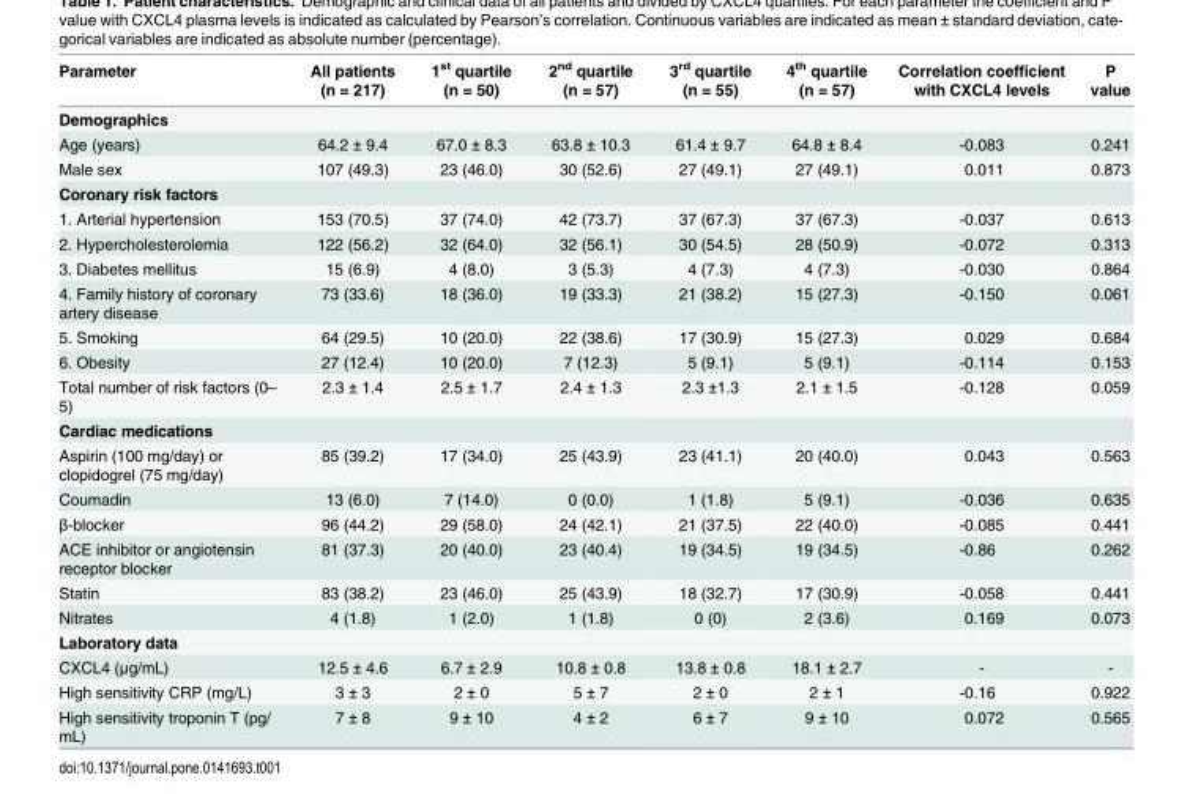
<table><thead><tr><td>Parameter</td><td>All patients (n = 217)</td><td>1<sup>st</sup> quartile (n = 50)</td><td>2<sup>nd</sup> quartile (n = 57)</td><td>3<sup>rd</sup> quartile (n = 55)</td><td>4<sup>th</sup> quartile (n = 57)</td><td>Correlation coefficient with CXCL4 levels</td><td>P value</td></tr></thead><tbody><tr><td colspan="8">Demographics</td></tr><tr><td>Age (years)</td><td>64.2 ± 9.4</td><td>67.0 ± 8.3</td><td>63.8 ± 10.3</td><td>61.4 ± 9.7</td><td>64.8 ± 8.4</td><td>-0.083</td><td>0.241</td></tr><tr><td>Male sex</td><td>107 (49.3)</td><td>23 (46.0)</td><td>30 (52.6)</td><td>27 (49.1)</td><td>27 (49.1)</td><td>0.011</td><td>0.873</td></tr><tr><td colspan="8">Coronary risk factors</td></tr><tr><td>1. Arterial hypertension</td><td>153 (70.5)</td><td>37 (74.0)</td><td>42 (73.7)</td><td>37 (67.3)</td><td>37 (67.3)</td><td>-0.037</td><td>0.613</td></tr><tr><td>2. Hypercholesterolemia</td><td>122 (56.2)</td><td>32 (64.0)</td><td>32 (56.1)</td><td>30 (54.5)</td><td>28 (50.9)</td><td>-0.072</td><td>0.313</td></tr><tr><td>3. Diabetes mellitus</td><td>15 (6.9)</td><td>4 (8.0)</td><td>3 (5.3)</td><td>4 (7.3)</td><td>4 (7.3)</td><td>-0.030</td><td>0.864</td></tr><tr><td>4. Family history of coronary artery disease</td><td>73 (33.6)</td><td>18 (36.0)</td><td>19 (33.3)</td><td>21 (38.2)</td><td>15 (27.3)</td><td>-0.150</td><td>0.061</td></tr><tr><td>5. Smoking</td><td>64 (29.5)</td><td>10 (20.0)</td><td>22 (38.6)</td><td>17 (30.9)</td><td>15 (27.3)</td><td>0.029</td><td>0.684</td></tr><tr><td>6. Obesity</td><td>27 (12.4)</td><td>10 (20.0)</td><td>7 (12.3)</td><td>5 (9.1)</td><td>5 (9.1)</td><td>-0.114</td><td>0.153</td></tr><tr><td>Total number of risk factors (0– 5)</td><td>2.3 ± 1.4</td><td>2.5 ± 1.7</td><td>2.4 ± 1.3</td><td>2.3 ±1.3</td><td>2.1 ± 1.5</td><td>-0.128</td><td>0.059</td></tr><tr><td colspan="8">Cardiac medications</td></tr><tr><td>Aspirin (100 mg/day) or clopidogrel (75 mg/day)</td><td>85 (39.2)</td><td>17 (34.0)</td><td>25 (43.9)</td><td>23 (41.1)</td><td>20 (40.0)</td><td>0.043</td><td>0.563</td></tr><tr><td>Coumadin</td><td>13 (6.0)</td><td>7 (14.0)</td><td>0 (0.0)</td><td>1 (1.8)</td><td>5 (9.1)</td><td>-0.036</td><td>0.635</td></tr><tr><td>β-blocker</td><td>96 (44.2)</td><td>29 (58.0)</td><td>24 (42.1)</td><td>21 (37.5)</td><td>22 (40.0)</td><td>-0.085</td><td>0.441</td></tr><tr><td>ACE inhibitor or angiotensin receptor blocker</td><td>81 (37.3)</td><td>20 (40.0)</td><td>23 (40.4)</td><td>19 (34.5)</td><td>19 (34.5)</td><td>-0.86</td><td>0.262</td></tr><tr><td>Statin</td><td>83 (38.2)</td><td>23 (46.0)</td><td>25 (43.9)</td><td>18 (32.7)</td><td>17 (30.9)</td><td>-0.058</td><td>0.441</td></tr><tr><td>Nitrates</td><td>4 (1.8)</td><td>1 (2.0)</td><td>1 (1.8)</td><td>0 (0)</td><td>2 (3.6)</td><td>0.169</td><td>0.073</td></tr><tr><td colspan="8">Laboratory data</td></tr><tr><td>CXCL4 (μg/mL)</td><td>12.5 ± 4.6</td><td>6.7 ± 2.9</td><td>10.8 ± 0.8</td><td>13.8 ± 0.8</td><td>18.1 ± 2.7</td><td>-</td><td>-</td></tr><tr><td>High sensitivity CRP (mg/L)</td><td>3 ± 3</td><td>2 ± 0</td><td>5 ± 7</td><td>2 ± 0</td><td>2 ± 1</td><td>-0.16</td><td>0.922</td></tr><tr><td>High sensitivity troponin T (pg/ mL)</td><td>7 ± 8</td><td>9 ± 10</td><td>4 ± 2</td><td>6 ± 7</td><td>9 ± 10</td><td>0.072</td><td>0.565</td></tr></tbody></table>